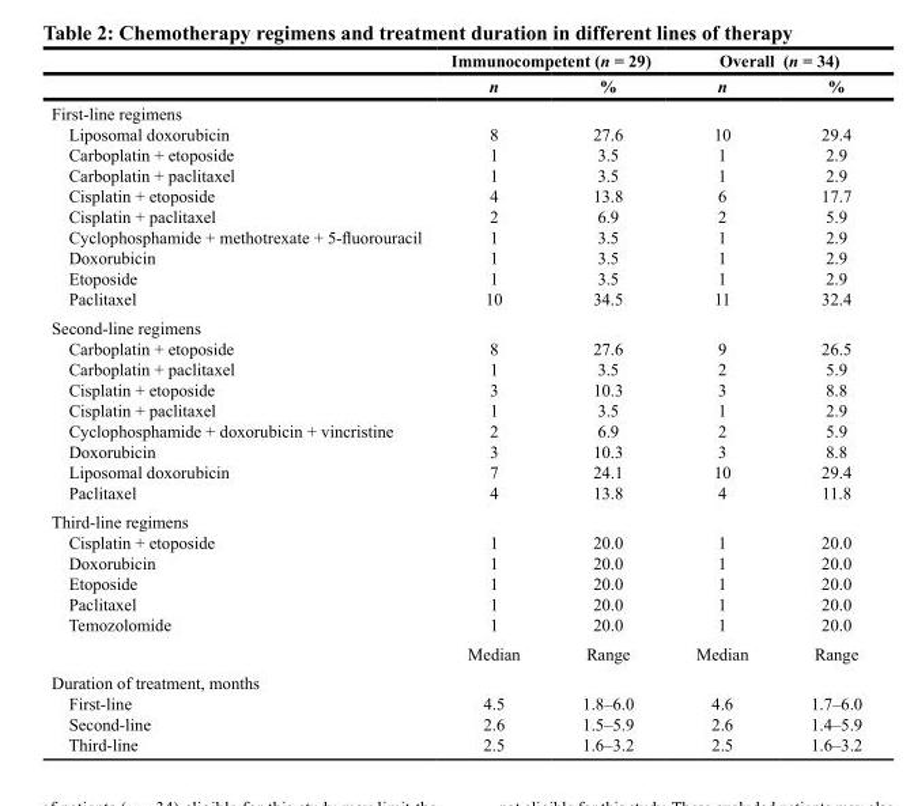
<table><thead><tr><td rowspan="2"></td><td colspan="2">Immunocompetent (n = 29)</td><td colspan="2">Overall (n = 34)</td></tr><tr><td>n</td><td>%</td><td>n</td><td>%</td></tr></thead><tbody><tr><td>First-line regimens Liposomal doxorubicin Carboplatin + etoposide Carboplatin + paclitaxel Cisplatin + etoposide Cisplatin + paclitaxel Cyclophosphamide + methotrexate + 5-fluorouracil Doxorubicin Etoposide Paclitaxel</td><td>8 1 1 4 2 1 1 1 10</td><td>27.6 3.5 3.5 13.8 6.9 3.5 3.5 3.5 34.5</td><td>10 1 1 6 2 1 1 1 11</td><td>29.4 2.9 2.9 17.7 5.9 2.9 2.9 2.9 32.4</td></tr><tr><td>Second-line regimens Carboplatin + etoposide Carboplatin + paclitaxel Cisplatin + etoposide Cisplatin + paclitaxel Cyclophosphamide + doxorubicin + vincristine Doxorubicin Liposomal doxorubicin Paclitaxel</td><td>8 1 3 1 2 3 7 4</td><td>27.6 3.5 10.3 3.5 6.9 10.3 24.1 13.8</td><td>9 2 3 1 2 3 10 4</td><td>26.5 5.9 8.8 2.9 5.9 8.8 29.4 11.8</td></tr><tr><td rowspan="2">Third-line regimens Cisplatin + etoposide Doxorubicin Etoposide Paclitaxel Temozolomide</td><td>1 1 1 1 1</td><td>20.0 20.0 20.0 20.0 20.0</td><td>1 1 1 1 1</td><td>20.0 20.0 20.0 20.0 20.0</td></tr><tr><td>Median</td><td>Range</td><td>Median</td><td>Range</td></tr><tr><td>Duration of treatment, months First-line Second-line Third-line</td><td>4.5 2.6 2.5</td><td>1.8–6.0 1.5–5.9 1.6–3.2</td><td>4.6 2.6 2.5</td><td>1.7–6.0 1.4–5.9 1.6–3.2</td></tr></tbody></table>